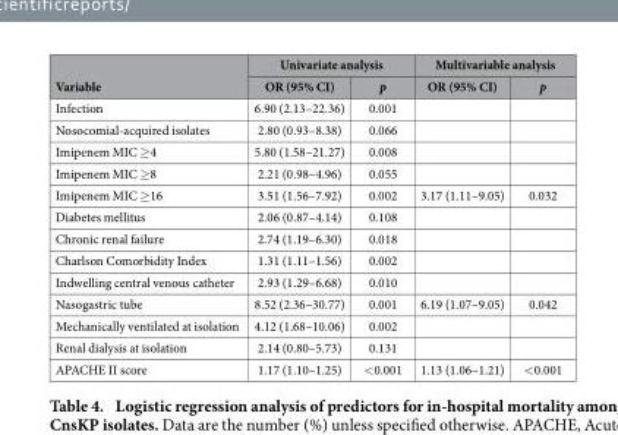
<table><thead><tr><td rowspan="2">Variable</td><td colspan="2">Univariate analysis</td><td colspan="2">Multivariable analysis</td></tr><tr><td>OR (95% CI)</td><td>p</td><td>OR (95% CI)</td><td>p</td></tr></thead><tbody><tr><td>Infection</td><td>6.90 (2.13–22.36)</td><td>0.001</td><td></td><td></td></tr><tr><td>Nosocomial-acquired isolates</td><td>2.80 (0.93–8.38)</td><td>0.066</td><td></td><td></td></tr><tr><td>Imipenem MIC ≥ 4</td><td>5.80 (1.58–21.27)</td><td>0.008</td><td></td><td></td></tr><tr><td>Imipenem MIC ≥ 8</td><td>2.21 (0.98–4.96)</td><td>0.055</td><td></td><td></td></tr><tr><td>Imipenem MIC ≥ 16</td><td>3.51 (1.56–7.92)</td><td>0.002</td><td>3.17 (1.11–9.05)</td><td>0.032</td></tr><tr><td>Diabetes mellitus</td><td>2.06 (0.87–4.14)</td><td>0.108</td><td></td><td></td></tr><tr><td>Chronic renal failure</td><td>2.74 (1.19–6.30)</td><td>0.018</td><td></td><td></td></tr><tr><td>Charlson Comorbidity Index</td><td>1.31 (1.11–1.56)</td><td>0.002</td><td></td><td></td></tr><tr><td>Indwelling central venous catheter</td><td>2.93 (1.29–6.68)</td><td>0.010</td><td></td><td></td></tr><tr><td>Nasogastric tube</td><td>8.52 (2.36–30.77)</td><td>0.001</td><td>6.19 (1.07–9.05)</td><td>0.042</td></tr><tr><td>Mechanically ventilated at isolation</td><td>4.12 (1.68–10.06)</td><td>0.002</td><td></td><td></td></tr><tr><td>Renal dialysis at isolation</td><td>2.14 (0.80–5.73)</td><td>0.131</td><td></td><td></td></tr><tr><td>APACHE II score</td><td>1.17 (1.10–1.25)</td><td>&lt; 0.001</td><td>1.13 (1.06–1.21)</td><td>&lt; 0.001</td></tr></tbody></table>